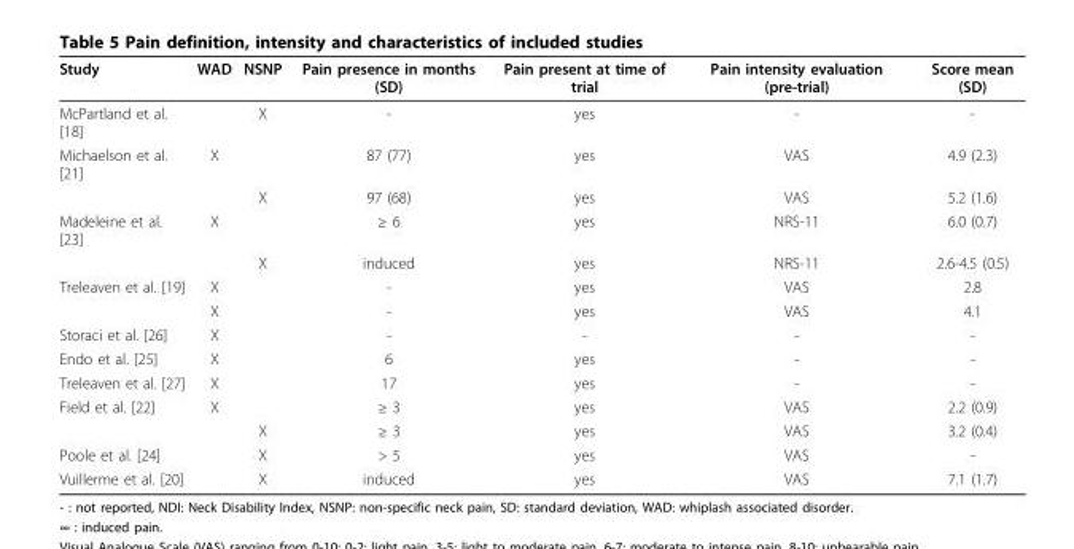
<table><thead><tr><td>Study</td><td>WAD</td><td>NSNP</td><td>Pain presence in months (SD)</td><td>Pain present at time of trial</td><td>Pain intensity evaluation (pre-trial)</td><td>Score mean (SD)</td></tr></thead><tbody><tr><td>McPartland et al. [18]</td><td></td><td>X</td><td>-</td><td>yes</td><td>-</td><td>-</td></tr><tr><td rowspan="2">Michaelson et al. [21]</td><td>X</td><td></td><td>87 (77)</td><td>yes</td><td>VAS</td><td>4.9 (2.3)</td></tr><tr><td></td><td>X</td><td>97 (68)</td><td>yes</td><td>VAS</td><td>5.2 (1.6)</td></tr><tr><td rowspan="2">Madeleine et al. [23]</td><td>X</td><td></td><td>≥ 6</td><td>yes</td><td>NRS-11</td><td>6.0 (0.7)</td></tr><tr><td></td><td>X</td><td>induced</td><td>yes</td><td>NRS-11</td><td>2.6-4.5 (0.5)</td></tr><tr><td rowspan="2">Treleaven et al. [19]</td><td>X</td><td></td><td>-</td><td>yes</td><td>VAS</td><td>2.8</td></tr><tr><td>X</td><td></td><td>-</td><td>yes</td><td>VAS</td><td>4.1</td></tr><tr><td>Storaci et al. [26]</td><td>X</td><td></td><td>-</td><td>-</td><td>-</td><td>-</td></tr><tr><td>Endo et al. [25]</td><td>X</td><td></td><td>6</td><td>yes</td><td>-</td><td>-</td></tr><tr><td>Treleaven et al. [27]</td><td>X</td><td></td><td>17</td><td>yes</td><td>-</td><td>-</td></tr><tr><td rowspan="2">Field et al. [22]</td><td>X</td><td></td><td>≥ 3</td><td>yes</td><td>VAS</td><td>2.2 (0.9)</td></tr><tr><td></td><td>X</td><td>≥ 3</td><td>yes</td><td>VAS</td><td>3.2 (0.4)</td></tr><tr><td>Poole et al. [24]</td><td></td><td>X</td><td>&gt; 5</td><td>yes</td><td>VAS</td><td>-</td></tr><tr><td>Vuillerme et al. [20]</td><td></td><td>X</td><td>induced</td><td>yes</td><td>VAS</td><td>7.1 (1.7)</td></tr></tbody></table>